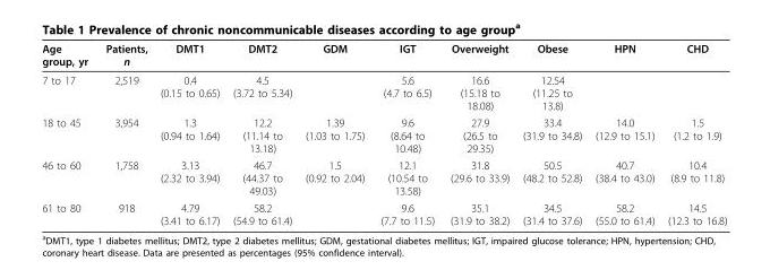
<table><thead><tr><td>Age group, yr</td><td>Patients, n</td><td>DMT1</td><td>DMT2</td><td>GDM</td><td>IGT</td><td>Overweight</td><td>Obese</td><td>HPN</td><td>CHD</td></tr></thead><tbody><tr><td>7 to 17</td><td>2,519</td><td>0.4 (0.15 to 0.65)</td><td>4.5 (3.72 to 5.34)</td><td></td><td>5.6 (4.7 to 6.5)</td><td>16.6 (15.18 to 18.08)</td><td>12.54 (11.25 to 13.8)</td><td></td><td></td></tr><tr><td>18 to 45</td><td>3,954</td><td>1.3 (0.94 to 1.64)</td><td>12.2 (11.14 to 13.18)</td><td>1.39 (1.03 to 1.75)</td><td>9.6 (8.64 to 10.48)</td><td>27.9 (26.5 to 29.35)</td><td>33.4 (31.9 to 34.8)</td><td>14.0 (12.9 to 15.1)</td><td>1.5 (1.2 to 1.9)</td></tr><tr><td>46 to 60</td><td>1,758</td><td>3.13 (2.32 to 3.94)</td><td>46.7 (44.37 to 49.03)</td><td>1.5 (0.92 to 2.04)</td><td>12.1 (10.54 to 13.58)</td><td>31.8 (29.6 to 33.9)</td><td>50.5 (48.2 to 52.8)</td><td>40.7 (38.4 to 43.0)</td><td>10.4 (8.9 to 11.8)</td></tr><tr><td>61 to 80</td><td>918</td><td>4.79 (3.41 to 6.17)</td><td>58.2 (54.9 to 61.4)</td><td></td><td>9.6 (7.7 to 11.5)</td><td>35.1 (31.9 to 38.2)</td><td>34.5 (31.4 to 37.6)</td><td>58.2 (55.0 to 61.4)</td><td>14.5 (12.3 to 16.8)</td></tr></tbody></table>